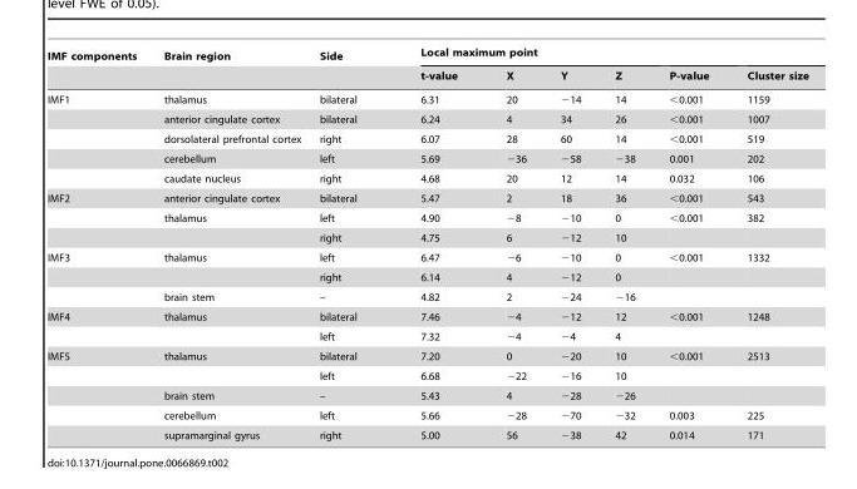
<table><thead><tr><td rowspan="2">IMF components</td><td rowspan="2">Brain region</td><td rowspan="2">Side</td><td colspan="4">Local maximum point</td><td rowspan="2">P-value</td><td rowspan="2">Cluster size</td></tr><tr><td>t-value</td><td>X</td><td>Y</td><td>Z</td></tr></thead><tbody><tr><td rowspan="5">IMF1</td><td>thalamus</td><td>bilateral</td><td>6.31</td><td>20</td><td>−14</td><td>14</td><td>&lt;0.001</td><td>1159</td></tr><tr><td>anterior cingulate cortex</td><td>bilateral</td><td>6.24</td><td>4</td><td>34</td><td>26</td><td>&lt;0.001</td><td>1007</td></tr><tr><td>dorsolateral prefrontal cortex</td><td>right</td><td>6.07</td><td>28</td><td>60</td><td>14</td><td>&lt;0.001</td><td>519</td></tr><tr><td>cerebellum</td><td>left</td><td>5.69</td><td>−36</td><td>−58</td><td>−38</td><td>0.001</td><td>202</td></tr><tr><td>caudate nucleus</td><td>right</td><td>4.68</td><td>20</td><td>12</td><td>14</td><td>0.032</td><td>106</td></tr><tr><td rowspan="3">IMF2</td><td>anterior cingulate cortex</td><td>bilateral</td><td>5.47</td><td>2</td><td>18</td><td>36</td><td>&lt;0.001</td><td>543</td></tr><tr><td>thalamus</td><td>left</td><td>4.90</td><td>−8</td><td>−10</td><td>0</td><td>&lt;0.001</td><td>382</td></tr><tr><td></td><td>right</td><td>4.75</td><td>6</td><td>−12</td><td>10</td><td></td><td></td></tr><tr><td rowspan="3">IMF3</td><td>thalamus</td><td>left</td><td>6.47</td><td>−6</td><td>−10</td><td>0</td><td>&lt;0.001</td><td>1332</td></tr><tr><td></td><td>right</td><td>6.14</td><td>4</td><td>−12</td><td>0</td><td></td><td></td></tr><tr><td>brain stem</td><td>–</td><td>4.82</td><td>2</td><td>−24</td><td>−16</td><td></td><td></td></tr><tr><td rowspan="2">IMF4</td><td>thalamus</td><td>bilateral</td><td>7.46</td><td>−4</td><td>−12</td><td>12</td><td>&lt;0.001</td><td>1248</td></tr><tr><td></td><td>left</td><td>7.32</td><td>−4</td><td>−4</td><td>4</td><td></td><td></td></tr><tr><td rowspan="5">IMF5</td><td>thalamus</td><td>bilateral</td><td>7.20</td><td>0</td><td>−20</td><td>10</td><td>&lt;0.001</td><td>2513</td></tr><tr><td></td><td>left</td><td>6.68</td><td>−22</td><td>−16</td><td>10</td><td></td><td></td></tr><tr><td>brain stem</td><td>–</td><td>5.43</td><td>4</td><td>−28</td><td>−26</td><td></td><td></td></tr><tr><td>cerebellum</td><td>left</td><td>5.66</td><td>−28</td><td>−70</td><td>−32</td><td>0.003</td><td>225</td></tr><tr><td>supramarginal gyrus</td><td>right</td><td>5.00</td><td>56</td><td>−38</td><td>42</td><td>0.014</td><td>171</td></tr></tbody></table>